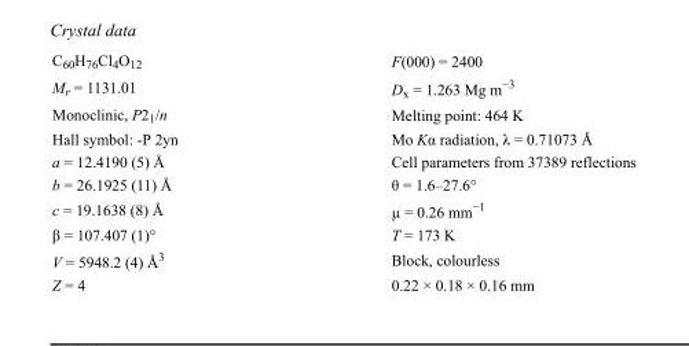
<table><tbody><tr><td>C<sub>60</sub>H<sub>76</sub>Cl<sub>4</sub>O<sub>12</sub></td><td>F(000) = 2400</td></tr><tr><td>M<sub>r</sub> = 1131.01</td><td>D<sub>x</sub> = 1.263 Mg m<sup>−3</sup></td></tr><tr><td>Monoclinic, P2<sub>1</sub>/n</td><td>Melting point: 464 K</td></tr><tr><td>Hall symbol: -P 2yn</td><td>Mo Kα radiation, λ = 0.71073 Å</td></tr><tr><td>a = 12.4190 (5) Å</td><td>Cell parameters from 37389 reflections</td></tr><tr><td>b = 26.1925 (11) Å</td><td>θ = 1.6–27.6°</td></tr><tr><td>c = 19.1638 (8) Å</td><td>µ = 0.26 mm<sup>−1</sup></td></tr><tr><td>β = 107.407 (1)°</td><td>T = 173 K</td></tr><tr><td>V = 5948.2 (4) Å<sup>3</sup></td><td>Block, colourless</td></tr><tr><td>Z = 4</td><td>0.22 × 0.18 × 0.16 mm</td></tr></tbody></table>